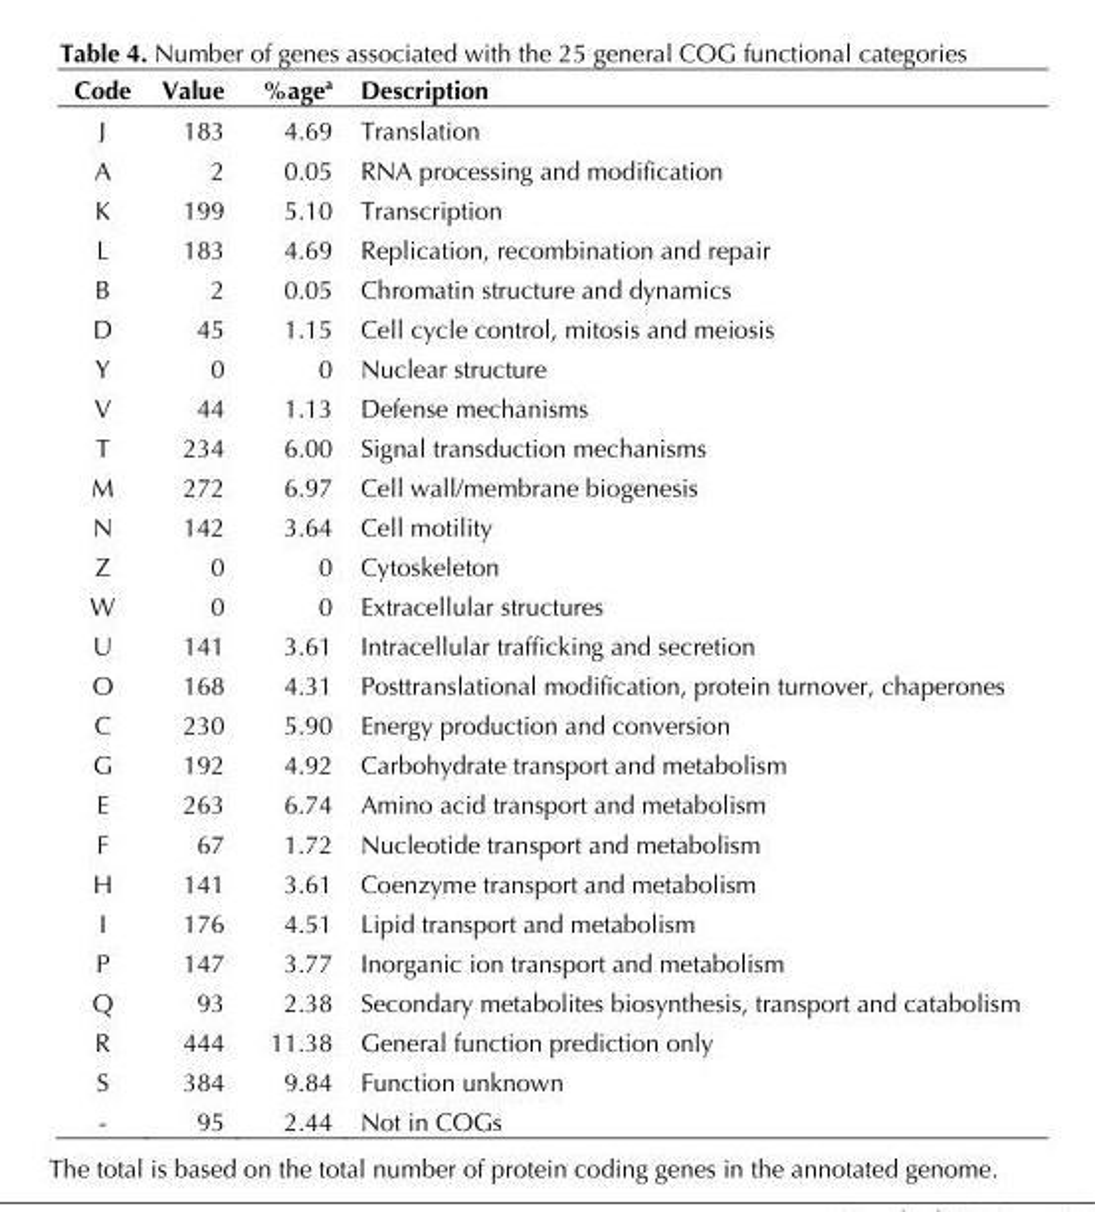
<table><thead><tr><td>Code</td><td>Value</td><td>%age<sup>a</sup></td><td>Description</td></tr></thead><tbody><tr><td>J</td><td>183</td><td>4.69</td><td>Translation</td></tr><tr><td>A</td><td>2</td><td>0.05</td><td>RNA processing and modification</td></tr><tr><td>K</td><td>199</td><td>5.10</td><td>Transcription</td></tr><tr><td>L</td><td>183</td><td>4.69</td><td>Replication, recombination and repair</td></tr><tr><td>B</td><td>2</td><td>0.05</td><td>Chromatin structure and dynamics</td></tr><tr><td>D</td><td>45</td><td>1.15</td><td>Cell cycle control, mitosis and meiosis</td></tr><tr><td>Y</td><td>0</td><td>0</td><td>Nuclear structure</td></tr><tr><td>V</td><td>44</td><td>1.13</td><td>Defense mechanisms</td></tr><tr><td>T</td><td>234</td><td>6.00</td><td>Signal transduction mechanisms</td></tr><tr><td>M</td><td>272</td><td>6.97</td><td>Cell wall/membrane biogenesis</td></tr><tr><td>N</td><td>142</td><td>3.64</td><td>Cell motility</td></tr><tr><td>Z</td><td>0</td><td>0</td><td>Cytoskeleton</td></tr><tr><td>W</td><td>0</td><td>0</td><td>Extracellular structures</td></tr><tr><td>U</td><td>141</td><td>3.61</td><td>Intracellular trafficking and secretion</td></tr><tr><td>O</td><td>168</td><td>4.31</td><td>Posttranslational modification, protein turnover, chaperones</td></tr><tr><td>C</td><td>230</td><td>5.90</td><td>Energy production and conversion</td></tr><tr><td>G</td><td>192</td><td>4.92</td><td>Carbohydrate transport and metabolism</td></tr><tr><td>E</td><td>263</td><td>6.74</td><td>Amino acid transport and metabolism</td></tr><tr><td>F</td><td>67</td><td>1.72</td><td>Nucleotide transport and metabolism</td></tr><tr><td>H</td><td>141</td><td>3.61</td><td>Coenzyme transport and metabolism</td></tr><tr><td>I</td><td>176</td><td>4.51</td><td>Lipid transport and metabolism</td></tr><tr><td>P</td><td>147</td><td>3.77</td><td>Inorganic ion transport and metabolism</td></tr><tr><td>Q</td><td>93</td><td>2.38</td><td>Secondary metabolites biosynthesis, transport and catabolism</td></tr><tr><td>R</td><td>444</td><td>11.38</td><td>General function prediction only</td></tr><tr><td>S</td><td>384</td><td>9.84</td><td>Function unknown</td></tr><tr><td>-</td><td>95</td><td>2.44</td><td>Not in COGs</td></tr></tbody></table>